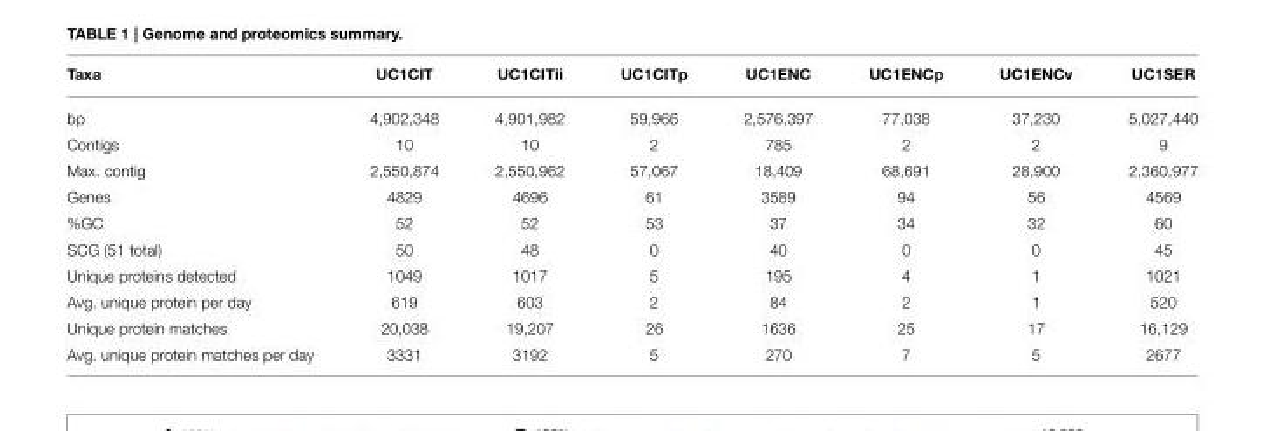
<table><thead><tr><td>Taxa</td><td>UC1CIT</td><td>UC1CITii</td><td>UC1CITp</td><td>UC1ENC</td><td>UC1ENCp</td><td>UC1ENCv</td><td>UC1SER</td></tr></thead><tbody><tr><td>bp</td><td>4,902,348</td><td>4,901,982</td><td>59,966</td><td>2,576,397</td><td>77,038</td><td>37,230</td><td>5,027,440</td></tr><tr><td>Contigs</td><td>10</td><td>10</td><td>2</td><td>785</td><td>2</td><td>2</td><td>9</td></tr><tr><td>Max. contig</td><td>2,550,874</td><td>2,550,962</td><td>57,067</td><td>18,409</td><td>68,691</td><td>28,900</td><td>2,360,977</td></tr><tr><td>Genes</td><td>4829</td><td>4696</td><td>61</td><td>3589</td><td>94</td><td>56</td><td>4569</td></tr><tr><td>%GC</td><td>52</td><td>52</td><td>53</td><td>37</td><td>34</td><td>32</td><td>60</td></tr><tr><td>SCG (51 total)</td><td>50</td><td>48</td><td>0</td><td>40</td><td>0</td><td>0</td><td>45</td></tr><tr><td>Unique proteins detected</td><td>1049</td><td>1017</td><td>5</td><td>195</td><td>4</td><td>1</td><td>1021</td></tr><tr><td>Avg. unique protein per day</td><td>619</td><td>603</td><td>2</td><td>84</td><td>2</td><td>1</td><td>520</td></tr><tr><td>Unique protein matches</td><td>20,038</td><td>19,207</td><td>26</td><td>1636</td><td>25</td><td>17</td><td>16,129</td></tr><tr><td>Avg. unique protein matches per day</td><td>3331</td><td>3192</td><td>5</td><td>270</td><td>7</td><td>5</td><td>2677</td></tr></tbody></table>